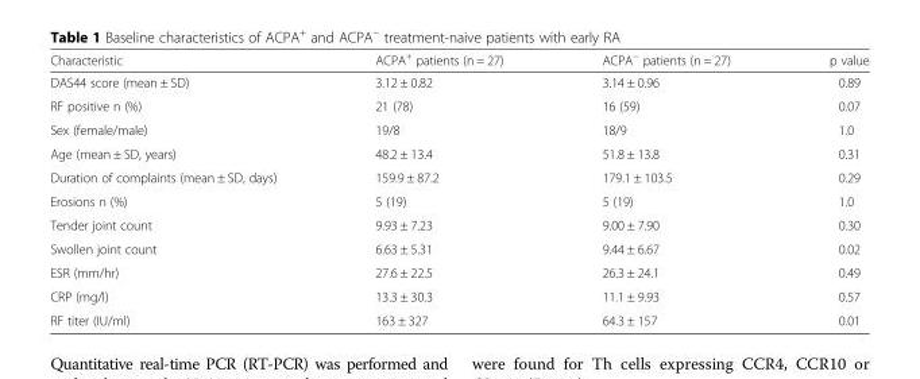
<table><thead><tr><td>Characteristic</td><td>ACPA<sup>+</sup> patients (n = 27)</td><td>ACPA<sup>−</sup> patients (n = 27)</td><td>p value</td></tr></thead><tbody><tr><td>DAS44 score (mean ± SD)</td><td>3.12 ± 0.82</td><td>3.14 ± 0.96</td><td>0.89</td></tr><tr><td>RF positive n (%)</td><td>21 (78)</td><td>16 (59)</td><td>0.07</td></tr><tr><td>Sex (female/male)</td><td>19/8</td><td>18/9</td><td>1.0</td></tr><tr><td>Age (mean ± SD, years)</td><td>48.2 ± 13.4</td><td>51.8 ± 13.8</td><td>0.31</td></tr><tr><td>Duration of complaints (mean ± SD, days)</td><td>159.9 ± 87.2</td><td>179.1 ± 103.5</td><td>0.29</td></tr><tr><td>Erosions n (%)</td><td>5 (19)</td><td>5 (19)</td><td>1.0</td></tr><tr><td>Tender joint count</td><td>9.93 ± 7.23</td><td>9.00 ± 7.90</td><td>0.30</td></tr><tr><td>Swollen joint count</td><td>6.63 ± 5.31</td><td>9.44 ± 6.67</td><td>0.02</td></tr><tr><td>ESR (mm/hr)</td><td>27.6 ± 22.5</td><td>26.3 ± 24.1</td><td>0.49</td></tr><tr><td>CRP (mg/l)</td><td>13.3 ± 30.3</td><td>11.1 ± 9.93</td><td>0.57</td></tr><tr><td>RF titer (IU/ml)</td><td>163 ± 327</td><td>64.3 ± 157</td><td>0.01</td></tr></tbody></table>